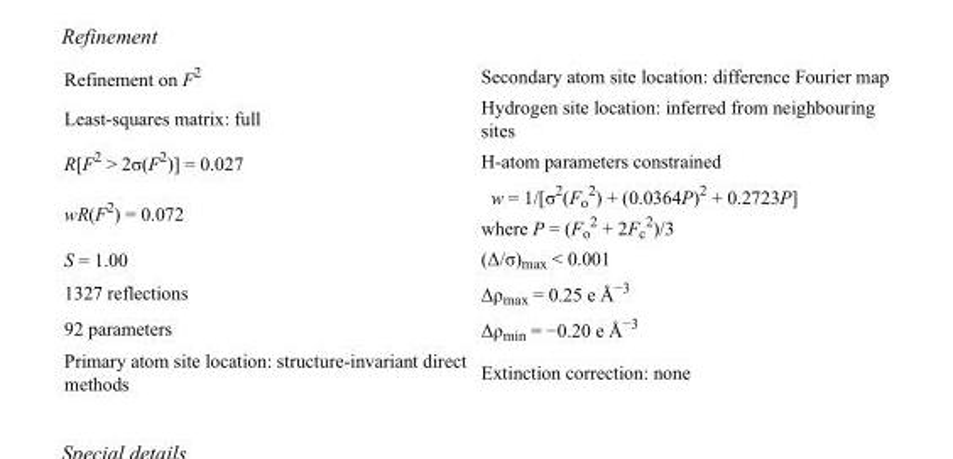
<table><tbody><tr><td>Refinement on F<sup>2</sup></td><td>Secondary atom site location: difference Fourier map</td></tr><tr><td>Least-squares matrix: full</td><td>Hydrogen site location: inferred from neighbouring sites</td></tr><tr><td>R[F<sup>2</sup> &gt; 2σ(F<sup>2</sup>)] = 0.027</td><td>H-atom parameters constrained</td></tr><tr><td>wR(F<sup>2</sup>) = 0.072</td><td>w = 1/[σ<sup>2</sup>(F<sub>o</sub> <sup>2</sup>) + (0.0364P)<sup>2</sup> + 0.2723P] where P = (F<sub>o</sub> <sup>2</sup> + 2F<sub>c</sub> <sup>2</sup>)/3</td></tr><tr><td>S = 1.00</td><td>(Δ/σ)<sub>max</sub> &lt; 0.001</td></tr><tr><td>1327 reflections</td><td>Δρ<sub>max</sub> = 0.25 e Å<sup>−3</sup></td></tr><tr><td>92 parameters</td><td>Δρ<sub>min</sub> = −0.20 e Å<sup>−3</sup></td></tr><tr><td>Primary atom site location: structure-invariant direct methods</td><td>Extinction correction: none</td></tr></tbody></table>